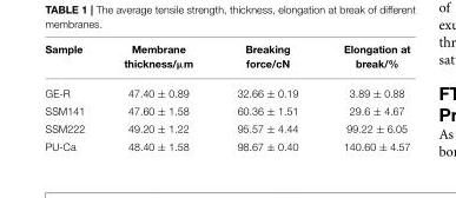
<table><thead><tr><td>Sample</td><td>Membrane thickness/µm</td><td>Breaking force/cN</td><td>Elongation at break/%</td></tr></thead><tbody><tr><td>GE-R</td><td>47.40 ± 0.89</td><td>32.66 ± 0.19</td><td>3.89 ± 0.88</td></tr><tr><td>SSM141</td><td>47.60 ± 1.58</td><td>60.36 ± 1.51</td><td>29.6 ± 4.67</td></tr><tr><td>SSM222</td><td>49.20 ± 1.22</td><td>95.57 ± 4.44</td><td>99.22 ± 6.05</td></tr><tr><td>PU-Ca</td><td>48.40 ± 1.58</td><td>98.67 ± 0.40</td><td>140.60 ± 4.57</td></tr></tbody></table>